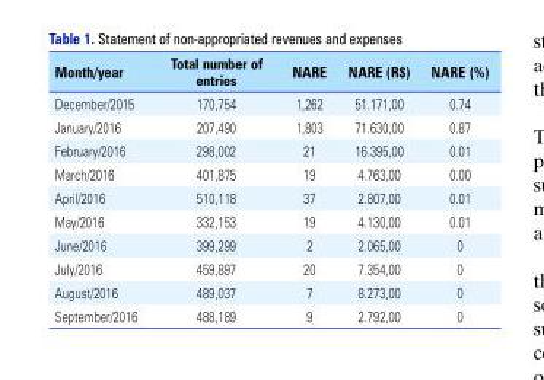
<table><thead><tr><td>Month/year</td><td>Total number of entries</td><td>NARE</td><td>NARE (R$)</td><td>NARE (%)</td></tr></thead><tbody><tr><td>December/2015</td><td>170,754</td><td>1,262</td><td>51.171,00</td><td>0.74</td></tr><tr><td>January/2016</td><td>207,490</td><td>1,803</td><td>71.630,00</td><td>0.87</td></tr><tr><td>February/2016</td><td>298,002</td><td>21</td><td>16.395,00</td><td>0.01</td></tr><tr><td>March/2016</td><td>401,875</td><td>19</td><td>4.763,00</td><td>0.00</td></tr><tr><td>April/2016</td><td>510,118</td><td>37</td><td>2.807,00</td><td>0.01</td></tr><tr><td>May/2016</td><td>332,153</td><td>19</td><td>4.130,00</td><td>0.01</td></tr><tr><td>June/2016</td><td>399,299</td><td>2</td><td>2.065,00</td><td>0</td></tr><tr><td>July/2016</td><td>459,897</td><td>20</td><td>7.354,00</td><td>0</td></tr><tr><td>August/2016</td><td>489,037</td><td>7</td><td>8.273,00</td><td>0</td></tr><tr><td>September/2016</td><td>488,189</td><td>9</td><td>2.792,00</td><td>0</td></tr></tbody></table>